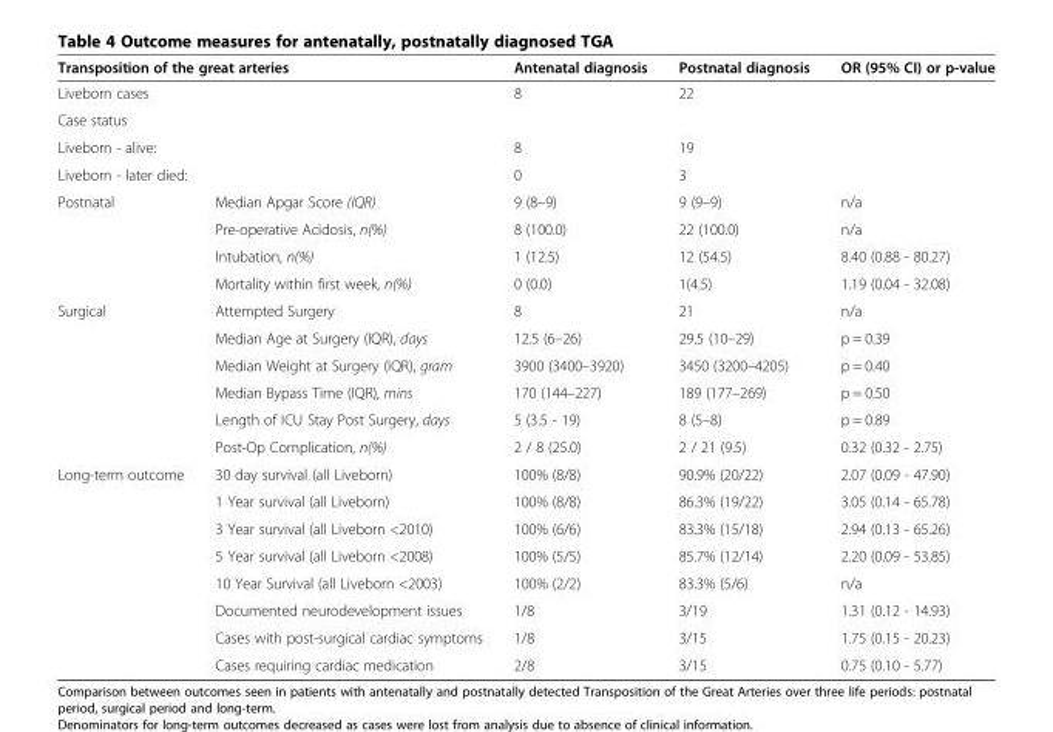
<table><thead><tr><td colspan="2">Transposition of the great arteries</td><td>Antenatal diagnosis</td><td>Postnatal diagnosis</td><td>OR (95% CI) or p-value</td></tr></thead><tbody><tr><td colspan="2">Liveborn cases</td><td>8</td><td>22</td><td></td></tr><tr><td colspan="5">Case status</td></tr><tr><td colspan="2">Liveborn - alive:</td><td>8</td><td>19</td><td></td></tr><tr><td colspan="2">Liveborn - later died:</td><td>0</td><td>3</td><td></td></tr><tr><td rowspan="4">Postnatal</td><td>Median Apgar Score (IQR)</td><td>9 (8–9)</td><td>9 (9–9)</td><td>n/a</td></tr><tr><td>Pre-operative Acidosis, n(%)</td><td>8 (100.0)</td><td>22 (100.0)</td><td>n/a</td></tr><tr><td>Intubation, n(%)</td><td>1 (12.5)</td><td>12 (54.5)</td><td>8.40 (0.88 - 80.27)</td></tr><tr><td>Mortality within first week, n(%)</td><td>0 (0.0)</td><td>1(4.5)</td><td>1.19 (0.04 - 32.08)</td></tr><tr><td rowspan="6">Surgical</td><td>Attempted Surgery</td><td>8</td><td>21</td><td>n/a</td></tr><tr><td>Median Age at Surgery (IQR), days</td><td>12.5 (6–26)</td><td>29.5 (10–29)</td><td>p = 0.39</td></tr><tr><td>Median Weight at Surgery (IQR), gram</td><td>3900 (3400–3920)</td><td>3450 (3200–4205)</td><td>p = 0.40</td></tr><tr><td>Median Bypass Time (IQR), mins</td><td>170 (144–227)</td><td>189 (177–269)</td><td>p = 0.50</td></tr><tr><td>Length of ICU Stay Post Surgery, days</td><td>5 (3.5 - 19)</td><td>8 (5–8)</td><td>p = 0.89</td></tr><tr><td>Post-Op Complication, n(%)</td><td>2 / 8 (25.0)</td><td>2 / 21 (9.5)</td><td>0.32 (0.32 - 2.75)</td></tr><tr><td rowspan="8">Long-term outcome</td><td>30 day survival (all Liveborn)</td><td>100% (8/8)</td><td>90.9% (20/22)</td><td>2.07 (0.09 - 47.90)</td></tr><tr><td>1 Year survival (all Liveborn)</td><td>100% (8/8)</td><td>86.3% (19/22)</td><td>3.05 (0.14 - 65.78)</td></tr><tr><td>3 Year survival (all Liveborn &lt;2010)</td><td>100% (6/6)</td><td>83.3% (15/18)</td><td>2.94 (0.13 - 65.26)</td></tr><tr><td>5 Year survival (all Liveborn &lt;2008)</td><td>100% (5/5)</td><td>85.7% (12/14)</td><td>2.20 (0.09 - 53.85)</td></tr><tr><td>10 Year Survival (all Liveborn &lt;2003)</td><td>100% (2/2)</td><td>83.3% (5/6)</td><td>n/a</td></tr><tr><td>Documented neurodevelopment issues</td><td>1/8</td><td>3/19</td><td>1.31 (0.12 - 14.93)</td></tr><tr><td>Cases with post-surgical cardiac symptoms</td><td>1/8</td><td>3/15</td><td>1.75 (0.15 - 20.23)</td></tr><tr><td>Cases requiring cardiac medication</td><td>2/8</td><td>3/15</td><td>0.75 (0.10 - 5.77)</td></tr></tbody></table>